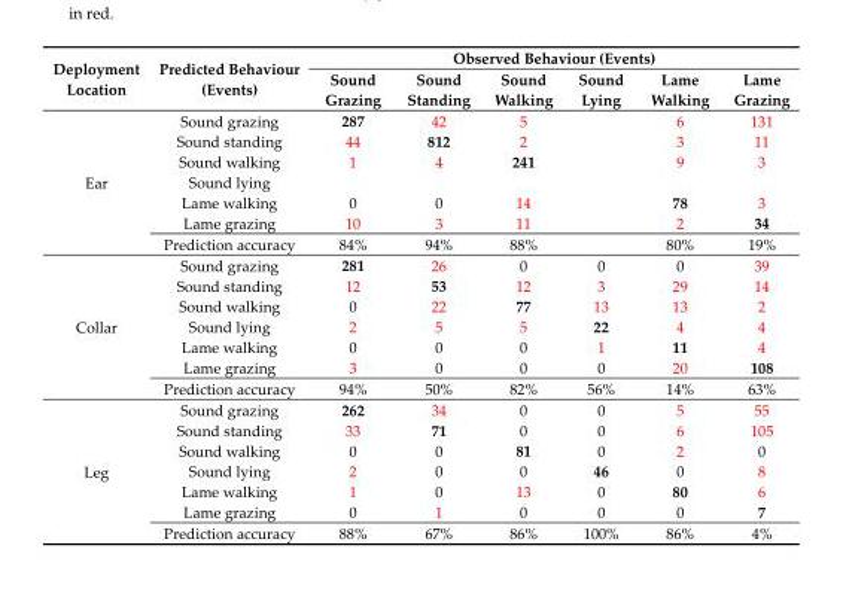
<table><thead><tr><td rowspan="2">Deployment Location</td><td rowspan="2">Predicted Behaviour (Events)</td><td colspan="6">Observed Behaviour (Events)</td></tr><tr><td>Sound Grazing</td><td>Sound Standing</td><td>Sound Walking</td><td>Sound Lying</td><td>Lame Walking</td><td>Lame Grazing</td></tr></thead><tbody><tr><td rowspan="7">Ear</td><td>Sound grazing</td><td>287</td><td>42</td><td>5</td><td></td><td>6</td><td>131</td></tr><tr><td>Sound standing</td><td>44</td><td>812</td><td>2</td><td></td><td>3</td><td>11</td></tr><tr><td>Sound walking</td><td>1</td><td>4</td><td>241</td><td></td><td>9</td><td>3</td></tr><tr><td>Sound lying</td><td></td><td></td><td></td><td></td><td></td><td></td></tr><tr><td>Lame walking</td><td>0</td><td>0</td><td>14</td><td></td><td>78</td><td>3</td></tr><tr><td>Lame grazing</td><td>10</td><td>3</td><td>11</td><td></td><td>2</td><td>34</td></tr><tr><td>Prediction accuracy</td><td>84%</td><td>94%</td><td>88%</td><td></td><td>80%</td><td>19%</td></tr><tr><td rowspan="7">Collar</td><td>Sound grazing</td><td>281</td><td>26</td><td>0</td><td>0</td><td>0</td><td>39</td></tr><tr><td>Sound standing</td><td>12</td><td>53</td><td>12</td><td>3</td><td>29</td><td>14</td></tr><tr><td>Sound walking</td><td>0</td><td>22</td><td>77</td><td>13</td><td>13</td><td>2</td></tr><tr><td>Sound lying</td><td>2</td><td>5</td><td>5</td><td>22</td><td>4</td><td>4</td></tr><tr><td>Lame walking</td><td>0</td><td>0</td><td>0</td><td>1</td><td>11</td><td>4</td></tr><tr><td>Lame grazing</td><td>3</td><td>0</td><td>0</td><td>0</td><td>20</td><td>108</td></tr><tr><td>Prediction accuracy</td><td>94%</td><td>50%</td><td>82%</td><td>56%</td><td>14%</td><td>63%</td></tr><tr><td rowspan="7">Leg</td><td>Sound grazing</td><td>262</td><td>34</td><td>0</td><td>0</td><td>5</td><td>55</td></tr><tr><td>Sound standing</td><td>33</td><td>71</td><td>0</td><td>0</td><td>6</td><td>105</td></tr><tr><td>Sound walking</td><td>0</td><td>0</td><td>81</td><td>0</td><td>2</td><td>0</td></tr><tr><td>Sound lying</td><td>2</td><td>0</td><td>0</td><td>46</td><td>0</td><td>8</td></tr><tr><td>Lame walking</td><td>1</td><td>0</td><td>13</td><td>0</td><td>80</td><td>6</td></tr><tr><td>Lame grazing</td><td>0</td><td>1</td><td>0</td><td>0</td><td>0</td><td>7</td></tr><tr><td>Prediction accuracy</td><td>88%</td><td>67%</td><td>86%</td><td>100%</td><td>86%</td><td>4%</td></tr></tbody></table>